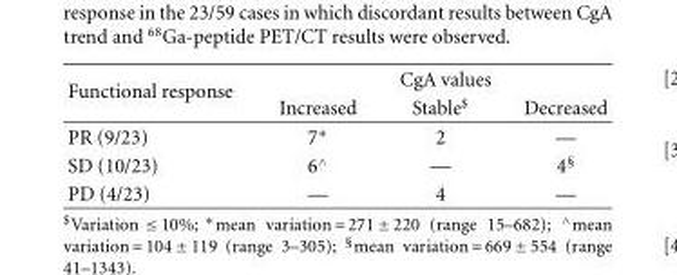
<table><thead><tr><td rowspan="2">Functional response</td><td colspan="3">CgA values</td></tr><tr><td>Increased</td><td>Stable<sup>$</sup></td><td>Decreased</td></tr></thead><tbody><tr><td>PR (9/23)</td><td>7∗</td><td>2</td><td>—</td></tr><tr><td>SD (10/23)</td><td>6<sup>∧</sup></td><td>—</td><td>4<sup>§</sup></td></tr><tr><td>PD (4/23)</td><td>—</td><td>4</td><td>—</td></tr></tbody></table>